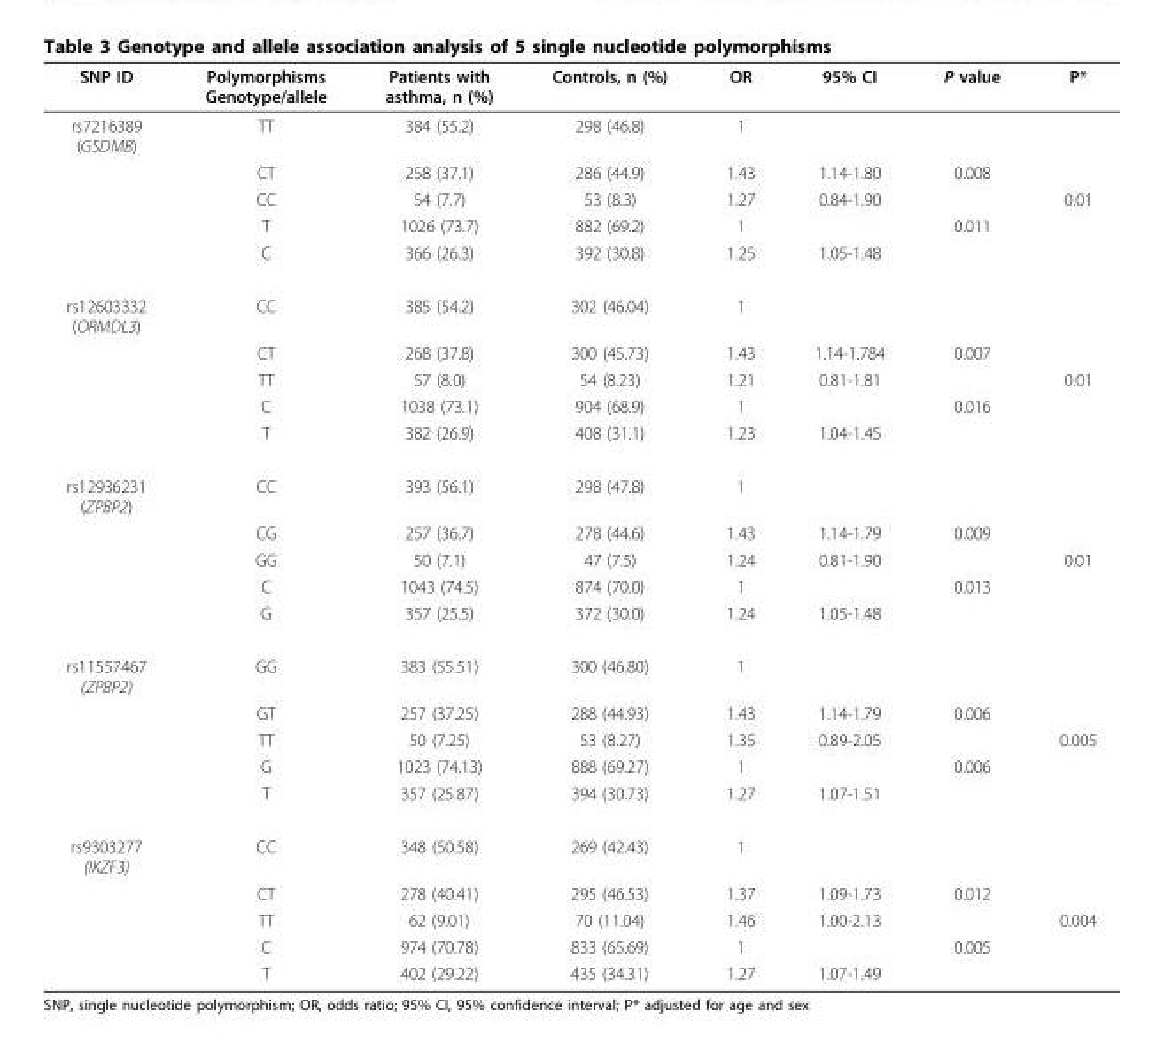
<table><thead><tr><td>SNP ID</td><td>Polymorphisms Genotype/allele</td><td>Patients with asthma, n (%)</td><td>Controls, n (%)</td><td>OR</td><td>95% CI</td><td>P value</td><td>P*</td></tr></thead><tbody><tr><td rowspan="5">rs7216389 (GSDMB)</td><td>TT</td><td>384 (55.2)</td><td>298 (46.8)</td><td>1</td><td></td><td></td><td></td></tr><tr><td>CT</td><td>258 (37.1)</td><td>286 (44.9)</td><td>1.43</td><td>1.14-1.80</td><td>0.008</td><td></td></tr><tr><td>CC</td><td>54 (7.7)</td><td>53 (8.3)</td><td>1.27</td><td>0.84-1.90</td><td></td><td>0.01</td></tr><tr><td>T</td><td>1026 (73.7)</td><td>882 (69.2)</td><td>1</td><td></td><td>0.011</td><td></td></tr><tr><td>C</td><td>366 (26.3)</td><td>392 (30.8)</td><td>1.25</td><td>1.05-1.48</td><td></td><td></td></tr><tr><td rowspan="5">rs12603332 (ORMDL3)</td><td>CC</td><td>385 (54.2)</td><td>302 (46.04)</td><td>1</td><td></td><td></td><td></td></tr><tr><td>CT</td><td>268 (37.8)</td><td>300 (45.73)</td><td>1.43</td><td>1.14-1.784</td><td>0.007</td><td></td></tr><tr><td>TT</td><td>57 (8.0)</td><td>54 (8.23)</td><td>1.21</td><td>0.81-1.81</td><td></td><td>0.01</td></tr><tr><td>C</td><td>1038 (73.1)</td><td>904 (68.9)</td><td>1</td><td></td><td>0.016</td><td></td></tr><tr><td>T</td><td>382 (26.9)</td><td>408 (31.1)</td><td>1.23</td><td>1.04-1.45</td><td></td><td></td></tr><tr><td rowspan="5">rs12936231 (ZPBP2)</td><td>CC</td><td>393 (56.1)</td><td>298 (47.8)</td><td>1</td><td></td><td></td><td></td></tr><tr><td>CG</td><td>257 (36.7)</td><td>278 (44.6)</td><td>1.43</td><td>1.14-1.79</td><td>0.009</td><td></td></tr><tr><td>GG</td><td>50 (7.1)</td><td>47 (7.5)</td><td>1.24</td><td>0.81-1.90</td><td></td><td>0.01</td></tr><tr><td>C</td><td>1043 (74.5)</td><td>874 (70.0)</td><td>1</td><td></td><td>0.013</td><td></td></tr><tr><td>G</td><td>357 (25.5)</td><td>372 (30.0)</td><td>1.24</td><td>1.05-1.48</td><td></td><td></td></tr><tr><td rowspan="5">rs11557467 (ZPBP2)</td><td>GG</td><td>383 (55.51)</td><td>300 (46.80)</td><td>1</td><td></td><td></td><td></td></tr><tr><td>GT</td><td>257 (37.25)</td><td>288 (44.93)</td><td>1.43</td><td>1.14-1.79</td><td>0.006</td><td></td></tr><tr><td>TT</td><td>50 (7.25)</td><td>53 (8.27)</td><td>1.35</td><td>0.89-2.05</td><td></td><td>0.005</td></tr><tr><td>G</td><td>1023 (74.13)</td><td>888 (69.27)</td><td>1</td><td></td><td>0.006</td><td></td></tr><tr><td>T</td><td>357 (25.87)</td><td>394 (30.73)</td><td>1.27</td><td>1.07-1.51</td><td></td><td></td></tr><tr><td rowspan="5">rs9303277 (IKZF3)</td><td>CC</td><td>348 (50.58)</td><td>269 (42.43)</td><td>1</td><td></td><td></td><td></td></tr><tr><td>CT</td><td>278 (40.41)</td><td>295 (46.53)</td><td>1.37</td><td>1.09-1.73</td><td>0.012</td><td></td></tr><tr><td>TT</td><td>62 (9.01)</td><td>70 (11.04)</td><td>1.46</td><td>1.00-2.13</td><td></td><td>0.004</td></tr><tr><td>C</td><td>974 (70.78)</td><td>833 (65.69)</td><td>1</td><td></td><td>0.005</td><td></td></tr><tr><td>T</td><td>402 (29.22)</td><td>435 (34.31)</td><td>1.27</td><td>1.07-1.49</td><td></td><td></td></tr></tbody></table>